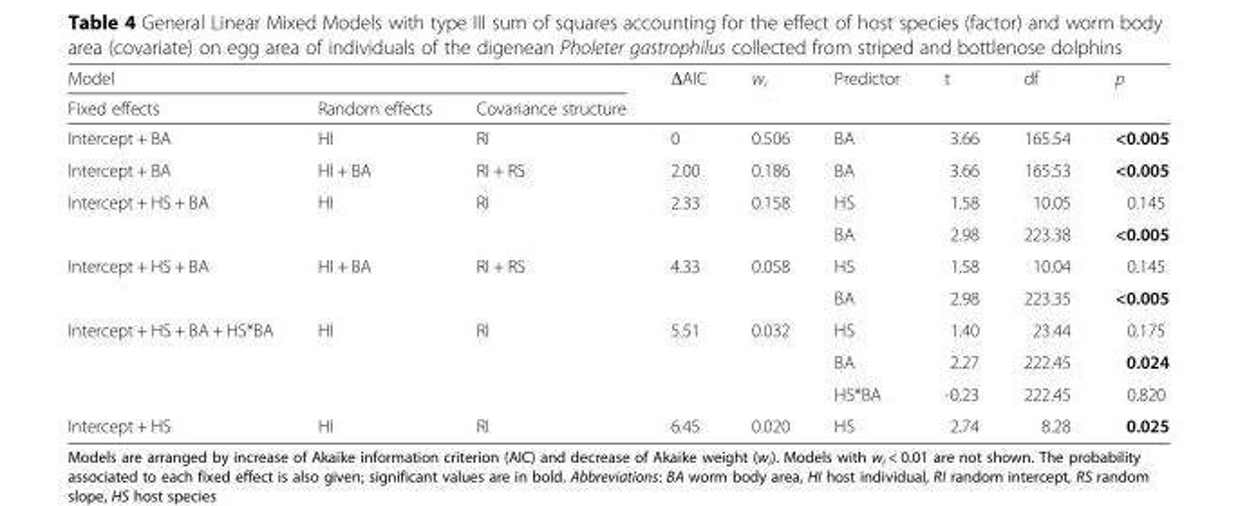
<table><thead><tr><td colspan="3">Model</td><td rowspan="2">ΔAIC</td><td rowspan="2">w<sub>i</sub></td><td rowspan="2">Predictor</td><td rowspan="2">t</td><td rowspan="2">df</td><td rowspan="2">p</td></tr><tr><td>Fixed effects</td><td>Random effects</td><td>Covariance structure</td></tr></thead><tbody><tr><td>Intercept + BA</td><td>HI</td><td>RI</td><td>0</td><td>0.506</td><td>BA</td><td>3.66</td><td>165.54</td><td>&lt;0.005</td></tr><tr><td>Intercept + BA</td><td>HI + BA</td><td>RI + RS</td><td>2.00</td><td>0.186</td><td>BA</td><td>3.66</td><td>165.53</td><td>&lt;0.005</td></tr><tr><td rowspan="2">Intercept + HS + BA</td><td rowspan="2">HI</td><td rowspan="2">RI</td><td rowspan="2">2.33</td><td rowspan="2">0.158</td><td>HS</td><td>1.58</td><td>10.05</td><td>0.145</td></tr><tr><td>BA</td><td>2.98</td><td>223.38</td><td>&lt;0.005</td></tr><tr><td rowspan="2">Intercept + HS + BA</td><td rowspan="2">HI + BA</td><td rowspan="2">RI + RS</td><td rowspan="2">4.33</td><td rowspan="2">0.058</td><td>HS</td><td>1.58</td><td>10.04</td><td>0.145</td></tr><tr><td>BA</td><td>2.98</td><td>223.35</td><td>&lt;0.005</td></tr><tr><td rowspan="3">Intercept + HS + BA + HS*BA</td><td rowspan="3">HI</td><td rowspan="3">RI</td><td rowspan="3">5.51</td><td rowspan="3">0.032</td><td>HS</td><td>1.40</td><td>23.44</td><td>0.175</td></tr><tr><td>BA</td><td>2.27</td><td>222.45</td><td>0.024</td></tr><tr><td>HS*BA</td><td>-0.23</td><td>222.45</td><td>0.820</td></tr><tr><td>Intercept + HS</td><td>HI</td><td>RI</td><td>6.45</td><td>0.020</td><td>HS</td><td>2.74</td><td>8.28</td><td>0.025</td></tr></tbody></table>